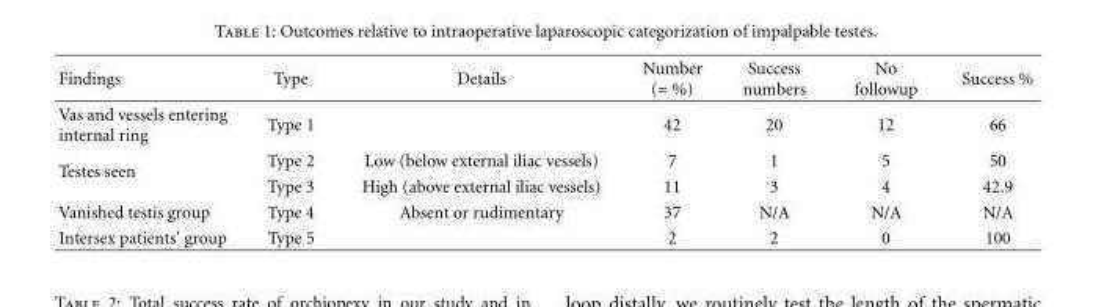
<table><thead><tr><td>Findings</td><td>Type</td><td>Details</td><td>Number (= %)</td><td>Success numbers</td><td>No followup</td><td>Success %</td></tr></thead><tbody><tr><td>Vas and vessels entering internal ring</td><td>Type 1</td><td></td><td>42</td><td>20</td><td>12</td><td>66</td></tr><tr><td rowspan="2">Testes seen</td><td>Type 2</td><td>Low (below external iliac vessels)</td><td>7</td><td>1</td><td>5</td><td>50</td></tr><tr><td>Type 3</td><td>High (above external iliac vessels)</td><td>11</td><td>3</td><td>4</td><td>42.9</td></tr><tr><td>Vanished testis group</td><td>Type 4</td><td>Absent or rudimentary</td><td>37</td><td>N/A</td><td>N/A</td><td>N/A</td></tr><tr><td>Intersex patients’ group</td><td>Type 5</td><td></td><td>2</td><td>2</td><td>0</td><td>100</td></tr></tbody></table>